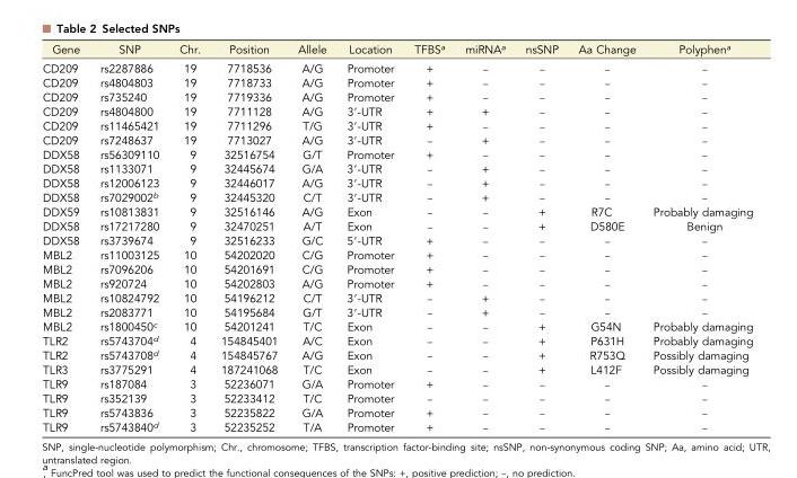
<table><thead><tr><td>Gene</td><td>SNP</td><td>Chr.</td><td>Position</td><td>Allele</td><td>Location</td><td>TFBS<sup>a</sup></td><td>miRNA<sup>a</sup></td><td>nsSNP</td><td>Aa Change</td><td>Polyphen<sup>a</sup></td></tr></thead><tbody><tr><td>CD209</td><td>rs2287886</td><td>19</td><td>7718536</td><td>A/G</td><td>Promoter</td><td>+</td><td>–</td><td>–</td><td>–</td><td>–</td></tr><tr><td>CD209</td><td>rs4804803</td><td>19</td><td>7718733</td><td>A/G</td><td>Promoter</td><td>+</td><td>–</td><td>–</td><td>–</td><td>–</td></tr><tr><td>CD209</td><td>rs735240</td><td>19</td><td>7719336</td><td>A/G</td><td>Promoter</td><td>+</td><td>–</td><td>–</td><td>–</td><td>–</td></tr><tr><td>CD209</td><td>rs4804800</td><td>19</td><td>7711128</td><td>A/G</td><td>3′-UTR</td><td>+</td><td>+</td><td>–</td><td>–</td><td>–</td></tr><tr><td>CD209</td><td>rs11465421</td><td>19</td><td>7711296</td><td>T/G</td><td>3′-UTR</td><td>+</td><td>–</td><td>–</td><td>–</td><td>–</td></tr><tr><td>CD209</td><td>rs7248637</td><td>19</td><td>7713027</td><td>A/G</td><td>3′-UTR</td><td>–</td><td>+</td><td>–</td><td>–</td><td>–</td></tr><tr><td>DDX58</td><td>rs56309110</td><td>9</td><td>32516754</td><td>G/T</td><td>Promoter</td><td>+</td><td>–</td><td>–</td><td>–</td><td>–</td></tr><tr><td>DDX58</td><td>rs1133071</td><td>9</td><td>32445674</td><td>G/A</td><td>3′-UTR</td><td>–</td><td>+</td><td>–</td><td>–</td><td>–</td></tr><tr><td>DDX58</td><td>rs12006123</td><td>9</td><td>32446017</td><td>A/G</td><td>3′-UTR</td><td>–</td><td>+</td><td>–</td><td>–</td><td>–</td></tr><tr><td>DDX58</td><td>rs7029002<sup>b</sup></td><td>9</td><td>32445320</td><td>C/T</td><td>3′-UTR</td><td>–</td><td>+</td><td>–</td><td>–</td><td>–</td></tr><tr><td>DDX59</td><td>rs10813831</td><td>9</td><td>32516146</td><td>A/G</td><td>Exon</td><td>–</td><td>–</td><td>+</td><td>R7C</td><td>Probably damaging</td></tr><tr><td>DDX58</td><td>rs17217280</td><td>9</td><td>32470251</td><td>A/T</td><td>Exon</td><td>–</td><td>–</td><td>+</td><td>D580E</td><td>Benign</td></tr><tr><td>DDX58</td><td>rs3739674</td><td>9</td><td>32516233</td><td>G/C</td><td>5′-UTR</td><td>+</td><td>–</td><td>–</td><td>–</td><td>–</td></tr><tr><td>MBL2</td><td>rs11003125</td><td>10</td><td>54202020</td><td>C/G</td><td>Promoter</td><td>+</td><td>–</td><td>–</td><td>–</td><td>–</td></tr><tr><td>MBL2</td><td>rs7096206</td><td>10</td><td>54201691</td><td>C/G</td><td>Promoter</td><td>+</td><td>–</td><td>–</td><td>–</td><td>–</td></tr><tr><td>MBL2</td><td>rs920724</td><td>10</td><td>54202803</td><td>A/G</td><td>Promoter</td><td>+</td><td>–</td><td>–</td><td>–</td><td>–</td></tr><tr><td>MBL2</td><td>rs10824792</td><td>10</td><td>54196212</td><td>C/T</td><td>3′-UTR</td><td>–</td><td>+</td><td>–</td><td>–</td><td>–</td></tr><tr><td>MBL2</td><td>rs2083771</td><td>10</td><td>54195684</td><td>G/T</td><td>3′-UTR</td><td>–</td><td>+</td><td>–</td><td>–</td><td>–</td></tr><tr><td>MBL2</td><td>rs1800450<sup>c</sup></td><td>10</td><td>54201241</td><td>T/C</td><td>Exon</td><td>–</td><td>–</td><td>+</td><td>G54N</td><td>Probably damaging</td></tr><tr><td>TLR2</td><td>rs5743704<sup>d</sup></td><td>4</td><td>154845401</td><td>A/C</td><td>Exon</td><td>–</td><td>–</td><td>+</td><td>P631H</td><td>Probably damaging</td></tr><tr><td>TLR2</td><td>rs5743708<sup>d</sup></td><td>4</td><td>154845767</td><td>A/G</td><td>Exon</td><td>–</td><td>–</td><td>+</td><td>R753Q</td><td>Possibly damaging</td></tr><tr><td>TLR3</td><td>rs3775291</td><td>4</td><td>187241068</td><td>T/C</td><td>Exon</td><td>–</td><td>–</td><td>+</td><td>L412F</td><td>Possibly damaging</td></tr><tr><td>TLR9</td><td>rs187084</td><td>3</td><td>52236071</td><td>G/A</td><td>Promoter</td><td>+</td><td>–</td><td>–</td><td>–</td><td>–</td></tr><tr><td>TLR9</td><td>rs352139</td><td>3</td><td>52233412</td><td>T/C</td><td>Promoter</td><td>–</td><td>–</td><td>–</td><td>–</td><td>–</td></tr><tr><td>TLR9</td><td>rs5743836</td><td>3</td><td>52235822</td><td>G/A</td><td>Promoter</td><td>+</td><td>–</td><td>–</td><td>–</td><td>–</td></tr><tr><td>TLR9</td><td>rs5743840<sup>d</sup></td><td>3</td><td>52235252</td><td>T/A</td><td>Promoter</td><td>+</td><td>–</td><td>–</td><td>–</td><td>–</td></tr></tbody></table>